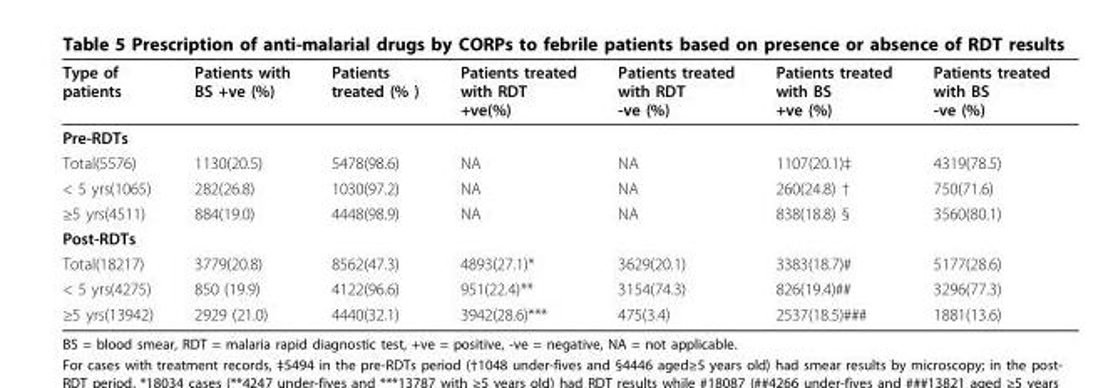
<table><thead><tr><td>Type of patients</td><td>Patients with BS +ve (%)</td><td>Patients treated (% )</td><td>Patients treated with RDT +ve(%)</td><td>Patients treated with RDT -ve (%)</td><td>Patients treated with BS +ve (%)</td><td>Patients treated with BS -ve (%)</td></tr></thead><tbody><tr><td colspan="7">Pre-RDTs</td></tr><tr><td>Total(5576)</td><td>1130(20.5)</td><td>5478(98.6)</td><td>NA</td><td>NA</td><td>1107(20.1)‡</td><td>4319(78.5)</td></tr><tr><td>&lt; 5 yrs(1065)</td><td>282(26.8)</td><td>1030(97.2)</td><td>NA</td><td>NA</td><td>260(24.8) †</td><td>750(71.6)</td></tr><tr><td>≥5 yrs(4511)</td><td>884(19.0)</td><td>4448(98.9)</td><td>NA</td><td>NA</td><td>838(18.8) §</td><td>3560(80.1)</td></tr><tr><td colspan="7">Post-RDTs</td></tr><tr><td>Total(18217)</td><td>3779(20.8)</td><td>8562(47.3)</td><td>4893(27.1)*</td><td>3629(20.1)</td><td>3383(18.7)#</td><td>5177(28.6)</td></tr><tr><td>&lt; 5 yrs(4275)</td><td>850 (19.9)</td><td>4122(96.6)</td><td>951(22.4)**</td><td>3154(74.3)</td><td>826(19.4)##</td><td>3296(77.3)</td></tr><tr><td>≥5 yrs(13942)</td><td>2929 (21.0)</td><td>4440(32.1)</td><td>3942(28.6)***</td><td>475(3.4)</td><td>2537(18.5)###</td><td>1881(13.6)</td></tr></tbody></table>